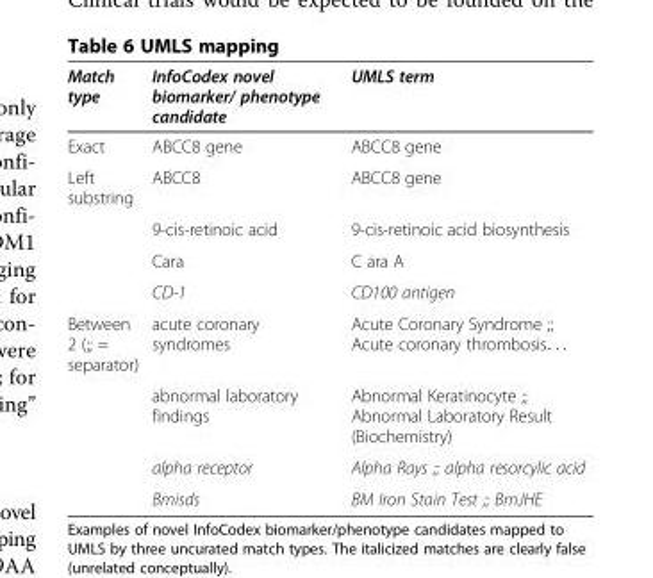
<table><thead><tr><td>Match type</td><td>InfoCodex novel biomarker/ phenotype candidate</td><td>UMLS term</td></tr></thead><tbody><tr><td>Exact</td><td>ABCC8 gene</td><td>ABCC8 gene</td></tr><tr><td rowspan="4">Left substring</td><td>ABCC8</td><td>ABCC8 gene</td></tr><tr><td>9-cis-retinoic acid</td><td>9-cis-retinoic acid biosynthesis</td></tr><tr><td>Cara</td><td>C ara A</td></tr><tr><td>CD-1</td><td>CD100 antigen</td></tr><tr><td rowspan="4">Between 2 (;; = separator)</td><td>acute coronary syndromes</td><td>Acute Coronary Syndrome ;; Acute coronary thrombosis. . .</td></tr><tr><td>abnormal laboratory findings</td><td>Abnormal Keratinocyte ;; Abnormal Laboratory Result (Biochemistry)</td></tr><tr><td>alpha receptor</td><td>Alpha Rays ;; alpha resorcylic acid</td></tr><tr><td>Bmisds</td><td>BM Iron Stain Test ;; BmJHE</td></tr></tbody></table>